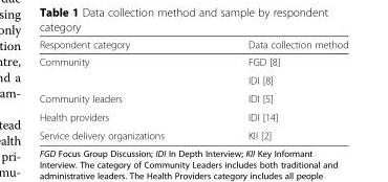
<table><thead><tr><td>Respondent category</td><td>Data collection method</td></tr></thead><tbody><tr><td rowspan="2">Community</td><td>FGD [8]</td></tr><tr><td>IDI [8]</td></tr><tr><td>Community leaders</td><td>IDI [5]</td></tr><tr><td>Health providers</td><td>IDI [14]</td></tr><tr><td>Service delivery organizations</td><td>KII [2]</td></tr></tbody></table>